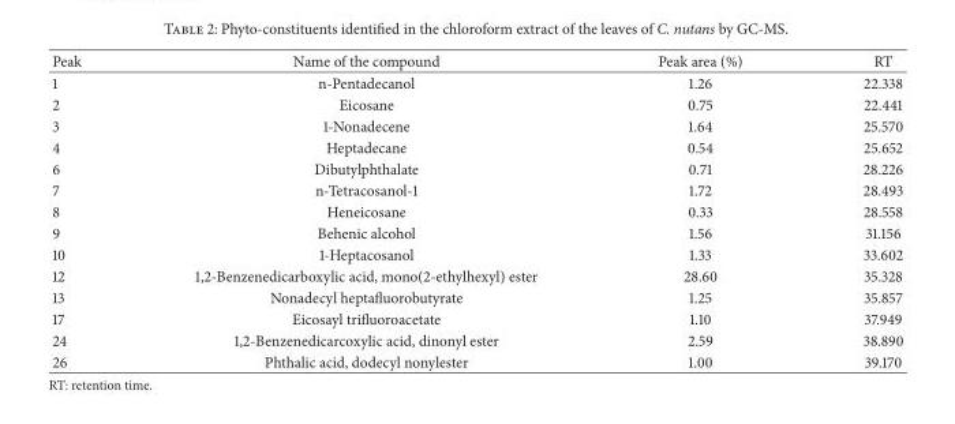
<table><thead><tr><td>Peak</td><td>Name of the compound</td><td>Peak area (%)</td><td>RT</td></tr></thead><tbody><tr><td>1</td><td>n-Pentadecanol</td><td>1.26</td><td>22.338</td></tr><tr><td>2</td><td>Eicosane</td><td>0.75</td><td>22.441</td></tr><tr><td>3</td><td>1-Nonadecene</td><td>1.64</td><td>25.570</td></tr><tr><td>4</td><td>Heptadecane</td><td>0.54</td><td>25.652</td></tr><tr><td>6</td><td>Dibutylphthalate</td><td>0.71</td><td>28.226</td></tr><tr><td>7</td><td>n-Tetracosanol-1</td><td>1.72</td><td>28.493</td></tr><tr><td>8</td><td>Heneicosane</td><td>0.33</td><td>28.558</td></tr><tr><td>9</td><td>Behenic alcohol</td><td>1.56</td><td>31.156</td></tr><tr><td>10</td><td>1-Heptacosanol</td><td>1.33</td><td>33.602</td></tr><tr><td>12</td><td>1,2-Benzenedicarboxylic acid, mono(2-ethylhexyl) ester</td><td>28.60</td><td>35.328</td></tr><tr><td>13</td><td>Nonadecyl heptafluorobutyrate</td><td>1.25</td><td>35.857</td></tr><tr><td>17</td><td>Eicosayl trifluoroacetate</td><td>1.10</td><td>37.949</td></tr><tr><td>24</td><td>1,2-Benzenedicarcoxylic acid, dinonyl ester</td><td>2.59</td><td>38.890</td></tr><tr><td>26</td><td>Phthalic acid, dodecyl nonylester</td><td>1.00</td><td>39.170</td></tr></tbody></table>